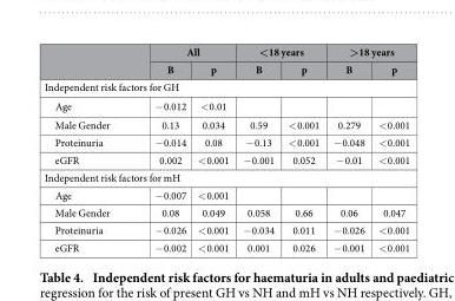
<table><thead><tr><td rowspan="2"></td><td colspan="2">All</td><td colspan="2">&lt;18 years</td><td colspan="2">&gt;18 years</td></tr><tr><td>B</td><td>p</td><td>B</td><td>p</td><td>B</td><td>p</td></tr></thead><tbody><tr><td colspan="7">Independent risk factors for GH</td></tr><tr><td>Age</td><td>− 0.012</td><td>&lt; 0.01</td><td></td><td></td><td></td><td></td></tr><tr><td>Male Gender</td><td>0.13</td><td>0.034</td><td>0.59</td><td>&lt; 0.001</td><td>0.279</td><td>&lt; 0.001</td></tr><tr><td>Proteinuria</td><td>− 0.014</td><td>0.08</td><td>− 0.13</td><td>&lt; 0.001</td><td>− 0.048</td><td>&lt; 0.001</td></tr><tr><td>eGFR</td><td>0.002</td><td>&lt; 0.001</td><td>− 0.001</td><td>0.052</td><td>− 0.01</td><td>&lt; 0.001</td></tr><tr><td colspan="7">Independent risk factors for mH</td></tr><tr><td>Age</td><td>− 0.007</td><td>&lt; 0.001</td><td></td><td></td><td></td><td></td></tr><tr><td>Male Gender</td><td>0.08</td><td>0.049</td><td>0.058</td><td>0.66</td><td>0.06</td><td>0.047</td></tr><tr><td>Proteinuria</td><td>− 0.026</td><td>&lt; 0.001</td><td>− 0.034</td><td>0.011</td><td>− 0.026</td><td>&lt; 0.001</td></tr><tr><td>eGFR</td><td>− 0.002</td><td>&lt; 0.001</td><td>0.001</td><td>0.026</td><td>− 0.001</td><td>&lt; 0.001</td></tr></tbody></table>